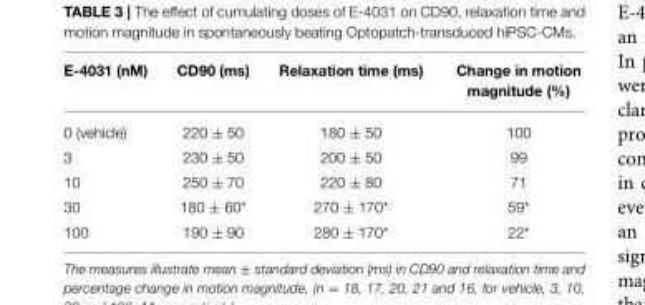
<table><thead><tr><td>E-4031 (nM)</td><td>CD90 (ms)</td><td>Relaxation time (ms)</td><td>Change in motion magnitude (%)</td></tr></thead><tbody><tr><td>0 (vehicle)</td><td>220 ± 50</td><td>180 ± 50</td><td>100</td></tr><tr><td>3</td><td>230 ± 50</td><td>200 ± 50</td><td>99</td></tr><tr><td>10</td><td>250 ± 70</td><td>220 ± 80</td><td>71</td></tr><tr><td>30</td><td>180 ± 60*</td><td>270 ± 170*</td><td>59*</td></tr><tr><td>100</td><td>190 ± 90</td><td>280 ± 170*</td><td>22*</td></tr></tbody></table>